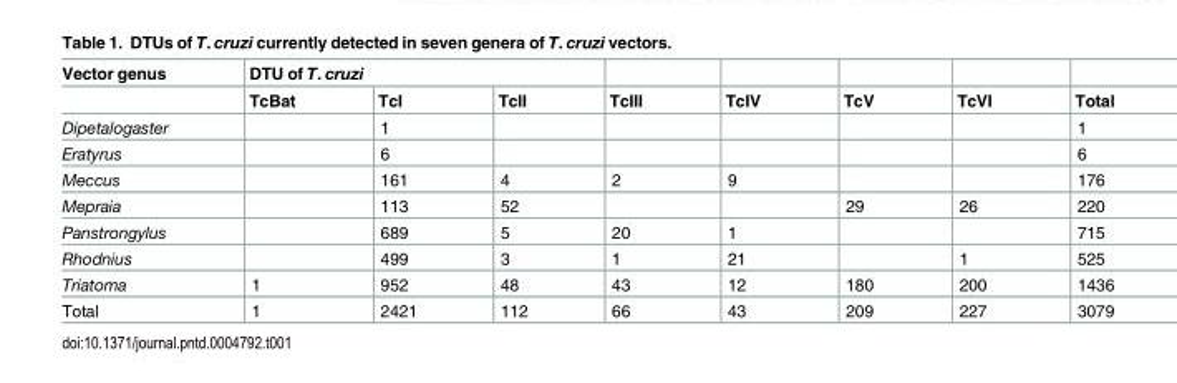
<table><thead><tr><td rowspan="2">Vector genus</td><td colspan="3">DTU of T. cruzi</td><td rowspan="2">TcIII</td><td rowspan="2">TcIV</td><td rowspan="2">TcV</td><td rowspan="2">TcVI</td><td rowspan="2">Total</td></tr><tr><td>TcBat</td><td>TcI</td><td>TcII</td></tr></thead><tbody><tr><td>Dipetalogaster</td><td></td><td>1</td><td></td><td></td><td></td><td></td><td></td><td>1</td></tr><tr><td>Eratyrus</td><td></td><td>6</td><td></td><td></td><td></td><td></td><td></td><td>6</td></tr><tr><td>Meccus</td><td></td><td>161</td><td>4</td><td>2</td><td>9</td><td></td><td></td><td>176</td></tr><tr><td>Mepraia</td><td></td><td>113</td><td>52</td><td></td><td></td><td>29</td><td>26</td><td>220</td></tr><tr><td>Panstrongylus</td><td></td><td>689</td><td>5</td><td>20</td><td>1</td><td></td><td></td><td>715</td></tr><tr><td>Rhodnius</td><td></td><td>499</td><td>3</td><td>1</td><td>21</td><td></td><td>1</td><td>525</td></tr><tr><td>Triatoma</td><td>1</td><td>952</td><td>48</td><td>43</td><td>12</td><td>180</td><td>200</td><td>1436</td></tr><tr><td>Total</td><td>1</td><td>2421</td><td>112</td><td>66</td><td>43</td><td>209</td><td>227</td><td>3079</td></tr></tbody></table>